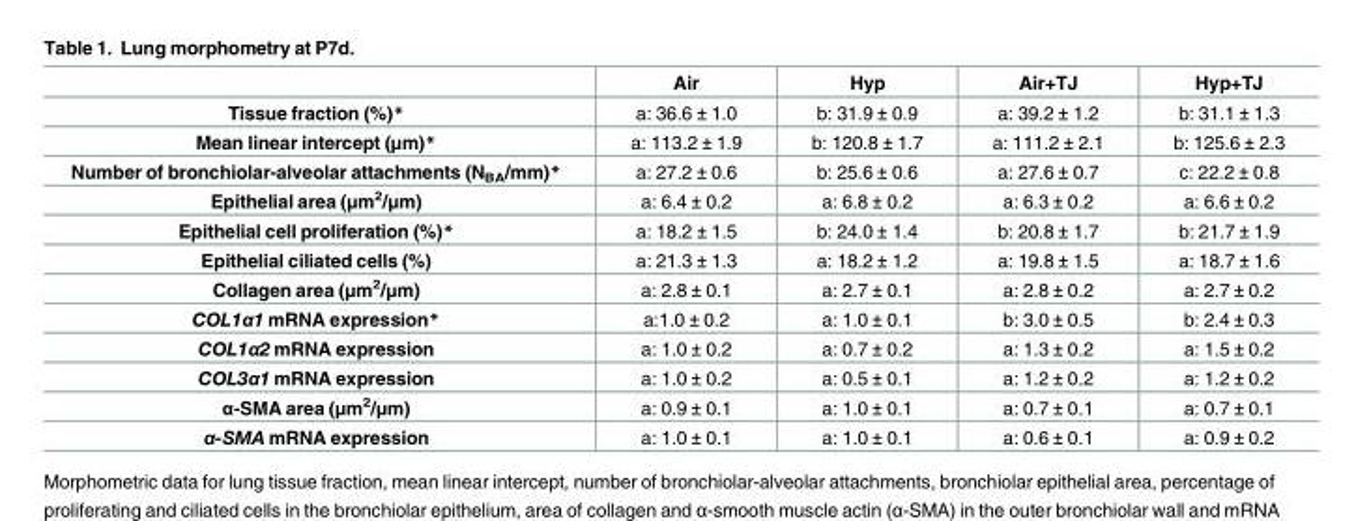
<table><thead><tr><td></td><td>Air</td><td>Hyp</td><td>Air+TJ</td><td>Hyp+TJ</td></tr></thead><tbody><tr><td>Tissue fraction (%)*</td><td>a: 36.6 ± 1.0</td><td>b: 31.9 ± 0.9</td><td>a: 39.2 ± 1.2</td><td>b: 31.1 ± 1.3</td></tr><tr><td>Mean linear intercept (μm)*</td><td>a: 113.2 ± 1.9</td><td>b: 120.8 ± 1.7</td><td>a: 111.2 ± 2.1</td><td>b: 125.6 ± 2.3</td></tr><tr><td>Number of bronchiolar-alveolar attachments (N<sub>BA</sub>/mm)*</td><td>a: 27.2 ± 0.6</td><td>b: 25.6 ± 0.6</td><td>a: 27.6 ± 0.7</td><td>c: 22.2 ± 0.8</td></tr><tr><td>Epithelial area (μm<sup>2</sup>/μm)</td><td>a: 6.4 ± 0.2</td><td>a: 6.8 ± 0.2</td><td>a: 6.3 ± 0.2</td><td>a: 6.6 ± 0.2</td></tr><tr><td>Epithelial cell proliferation (%)*</td><td>a: 18.2 ± 1.5</td><td>b: 24.0 ± 1.4</td><td>b: 20.8 ± 1.7</td><td>b: 21.7 ± 1.9</td></tr><tr><td>Epithelial ciliated cells (%)</td><td>a: 21.3 ± 1.3</td><td>a: 18.2 ± 1.2</td><td>a: 19.8 ± 1.5</td><td>a: 18.7 ± 1.6</td></tr><tr><td>Collagen area (μm<sup>2</sup>/μm)</td><td>a: 2.8 ± 0.1</td><td>a: 2.7 ± 0.1</td><td>a: 2.8 ± 0.2</td><td>a: 2.7 ± 0.2</td></tr><tr><td>COL1α1 mRNA expression*</td><td>a:1.0 ± 0.2</td><td>a: 1.0 ± 0.1</td><td>b: 3.0 ± 0.5</td><td>b: 2.4 ± 0.3</td></tr><tr><td>COL1α2 mRNA expression</td><td>a: 1.0 ± 0.2</td><td>a: 0.7 ± 0.2</td><td>a: 1.3 ± 0.2</td><td>a: 1.5 ± 0.2</td></tr><tr><td>COL3α1 mRNA expression</td><td>a: 1.0 ± 0.2</td><td>a: 0.5 ± 0.1</td><td>a: 1.2 ± 0.2</td><td>a: 1.2 ± 0.2</td></tr><tr><td>α-SMA area (μm<sup>2</sup>/μm)</td><td>a: 0.9 ± 0.1</td><td>a: 1.0 ± 0.1</td><td>a: 0.7 ± 0.1</td><td>a: 0.7 ± 0.1</td></tr><tr><td>α-SMA mRNA expression</td><td>a: 1.0 ± 0.1</td><td>a: 1.0 ± 0.1</td><td>a: 0.6 ± 0.1</td><td>a: 0.9 ± 0.2</td></tr></tbody></table>